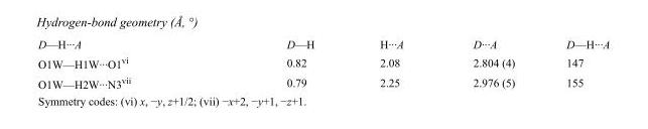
<table><tbody><tr><td>D—H···A</td><td>D—H</td><td>H···A</td><td>D···A</td><td>D—H···A</td></tr><tr><td>O1W—H1W···O1<sup>vi</sup></td><td>0.82</td><td>2.08</td><td>2.804 (4)</td><td>147</td></tr><tr><td>O1W—H2W···N3<sup>vii</sup></td><td>0.79</td><td>2.25</td><td>2.976 (5)</td><td>155</td></tr></tbody></table>